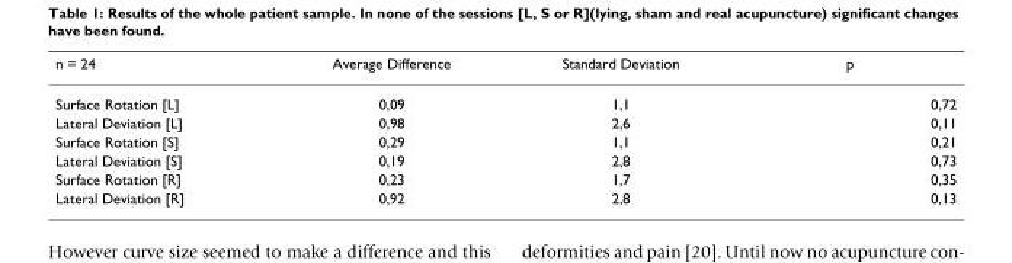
<table><thead><tr><td>n = 24</td><td>Average Difference</td><td>Standard Deviation</td><td>p</td></tr></thead><tbody><tr><td>Surface Rotation [L]</td><td>0,09</td><td>1,1</td><td>0,72</td></tr><tr><td>Lateral Deviation [L]</td><td>0,98</td><td>2,6</td><td>0,11</td></tr><tr><td>Surface Rotation [S]</td><td>0,29</td><td>1,1</td><td>0,21</td></tr><tr><td>Lateral Deviation [S]</td><td>0,19</td><td>2,8</td><td>0,73</td></tr><tr><td>Surface Rotation [R]</td><td>0,23</td><td>1,7</td><td>0,35</td></tr><tr><td>Lateral Deviation [R]</td><td>0,92</td><td>2,8</td><td>0,13</td></tr></tbody></table>